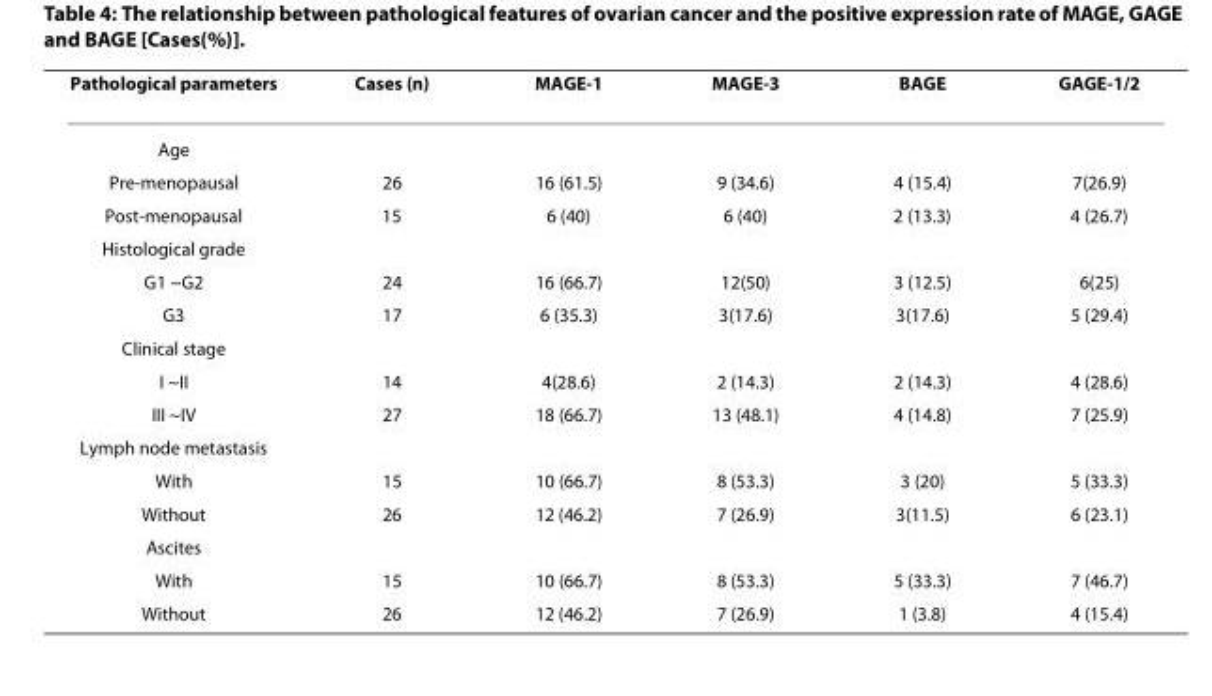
<table><thead><tr><td>Pathological parameters</td><td>Cases (n)</td><td>MAGE-1</td><td>MAGE-3</td><td>BAGE</td><td>GAGE-1/2</td></tr></thead><tbody><tr><td colspan="6">Age</td></tr><tr><td>Pre-menopausal</td><td>26</td><td>16 (61.5)</td><td>9 (34.6)</td><td>4 (15.4)</td><td>7(26.9)</td></tr><tr><td>Post-menopausal</td><td>15</td><td>6 (40)</td><td>6 (40)</td><td>2 (13.3)</td><td>4 (26.7)</td></tr><tr><td colspan="6">Histological grade</td></tr><tr><td>G1 ~G2</td><td>24</td><td>16 (66.7)</td><td>12(50)</td><td>3 (12.5)</td><td>6(25)</td></tr><tr><td>G3</td><td>17</td><td>6 (35.3)</td><td>3(17.6)</td><td>3(17.6)</td><td>5 (29.4)</td></tr><tr><td colspan="6">Clinical stage</td></tr><tr><td>I ~II</td><td>14</td><td>4(28.6)</td><td>2 (14.3)</td><td>2 (14.3)</td><td>4 (28.6)</td></tr><tr><td>III ~IV</td><td>27</td><td>18 (66.7)</td><td>13 (48.1)</td><td>4 (14.8)</td><td>7 (25.9)</td></tr><tr><td colspan="6">Lymph node metastasis</td></tr><tr><td>With</td><td>15</td><td>10 (66.7)</td><td>8 (53.3)</td><td>3 (20)</td><td>5 (33.3)</td></tr><tr><td>Without</td><td>26</td><td>12 (46.2)</td><td>7 (26.9)</td><td>3(11.5)</td><td>6 (23.1)</td></tr><tr><td colspan="6">Ascites</td></tr><tr><td>With</td><td>15</td><td>10 (66.7)</td><td>8 (53.3)</td><td>5 (33.3)</td><td>7 (46.7)</td></tr><tr><td>Without</td><td>26</td><td>12 (46.2)</td><td>7 (26.9)</td><td>1 (3.8)</td><td>4 (15.4)</td></tr></tbody></table>